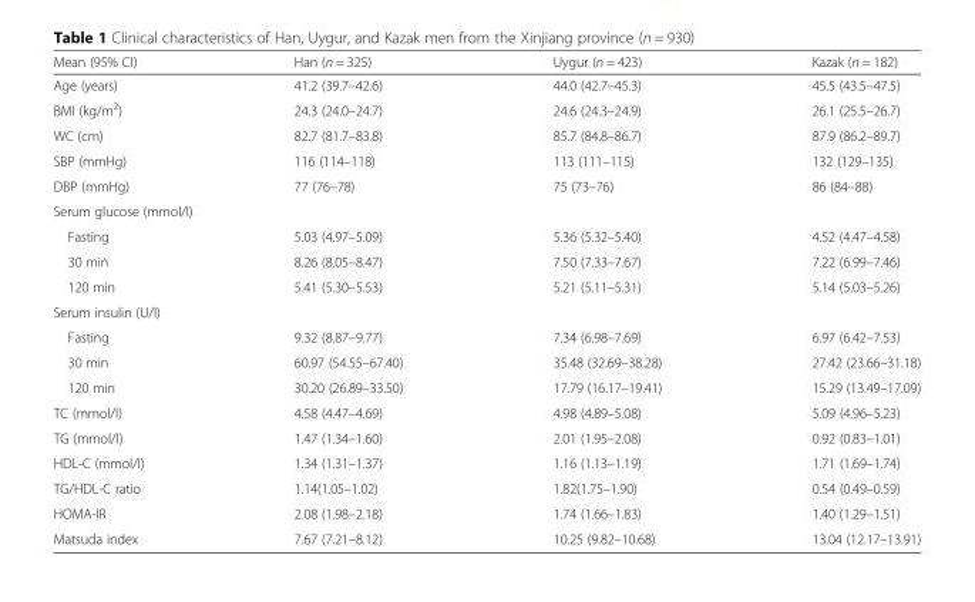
<table><thead><tr><td>Mean (95% CI)</td><td>Han (n = 325)</td><td>Uygur (n = 423)</td><td>Kazak (n = 182)</td></tr></thead><tbody><tr><td>Age (years)</td><td>41.2 (39.7–42.6)</td><td>44.0 (42.7–45.3)</td><td>45.5 (43.5–47.5)</td></tr><tr><td>BMI (kg/m<sup>2</sup>)</td><td>24.3 (24.0–24.7)</td><td>24.6 (24.3–24.9)</td><td>26.1 (25.5–26.7)</td></tr><tr><td>WC (cm)</td><td>82.7 (81.7–83.8)</td><td>85.7 (84.8–86.7)</td><td>87.9 (86.2–89.7)</td></tr><tr><td>SBP (mmHg)</td><td>116 (114–118)</td><td>113 (111–115)</td><td>132 (129–135)</td></tr><tr><td>DBP (mmHg)</td><td>77 (76–78)</td><td>75 (73–76)</td><td>86 (84–88)</td></tr><tr><td colspan="4">Serum glucose (mmol/l)</td></tr><tr><td>Fasting</td><td>5.03 (4.97–5.09)</td><td>5.36 (5.32–5.40)</td><td>4.52 (4.47–4.58)</td></tr><tr><td>30 min</td><td>8.26 (8.05–8.47)</td><td>7.50 (7.33–7.67)</td><td>7.22 (6.99–7.46)</td></tr><tr><td>120 min</td><td>5.41 (5.30–5.53)</td><td>5.21 (5.11–5.31)</td><td>5.14 (5.03–5.26)</td></tr><tr><td colspan="4">Serum insulin (U/l)</td></tr><tr><td>Fasting</td><td>9.32 (8.87–9.77)</td><td>7.34 (6.98–7.69)</td><td>6.97 (6.42–7.53)</td></tr><tr><td>30 min</td><td>60.97 (54.55–67.40)</td><td>35.48 (32.69–38.28)</td><td>27.42 (23.66–31.18)</td></tr><tr><td>120 min</td><td>30.20 (26.89–33.50)</td><td>17.79 (16.17–19.41)</td><td>15.29 (13.49–17.09)</td></tr><tr><td>TC (mmol/l)</td><td>4.58 (4.47–4.69)</td><td>4.98 (4.89–5.08)</td><td>5.09 (4.96–5.23)</td></tr><tr><td>TG (mmol/l)</td><td>1.47 (1.34–1.60)</td><td>2.01 (1.95–2.08)</td><td>0.92 (0.83–1.01)</td></tr><tr><td>HDL-C (mmol/l)</td><td>1.34 (1.31–1.37)</td><td>1.16 (1.13–1.19)</td><td>1.71 (1.69–1.74)</td></tr><tr><td>TG/HDL-C ratio</td><td>1.14(1.05–1.02)</td><td>1.82(1.75–1.90)</td><td>0.54 (0.49–0.59)</td></tr><tr><td>HOMA-IR</td><td>2.08 (1.98–2.18)</td><td>1.74 (1.66–1.83)</td><td>1.40 (1.29–1.51)</td></tr><tr><td>Matsuda index</td><td>7.67 (7.21–8.12)</td><td>10.25 (9.82–10.68)</td><td>13.04 (12.17–13.91)</td></tr></tbody></table>